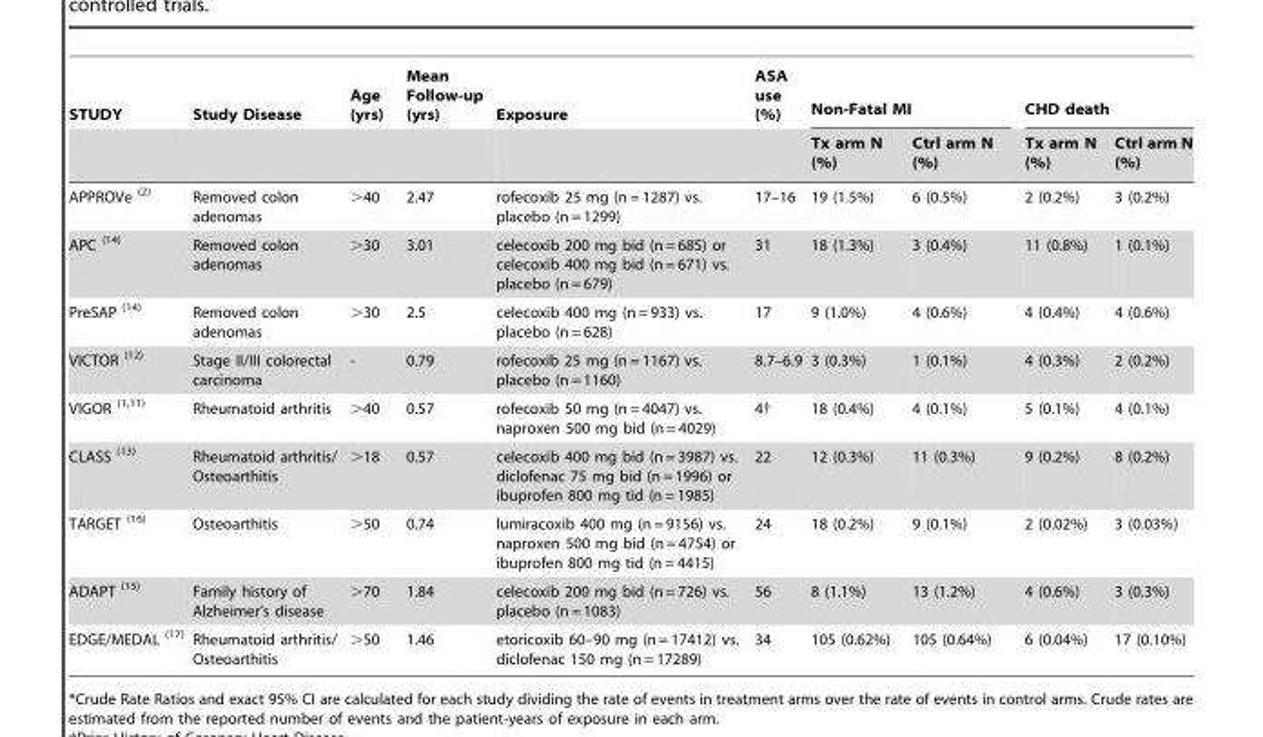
<table><thead><tr><td rowspan="2">STUDY</td><td rowspan="2">Study Disease</td><td rowspan="2">Age (yrs)</td><td rowspan="2">Mean Follow-up (yrs)</td><td rowspan="2">Exposure</td><td rowspan="2">ASA use (%)</td><td colspan="2">Non-Fatal MI</td><td colspan="2">CHD death</td></tr><tr><td>Tx arm N (%)</td><td>Ctrl arm N (%)</td><td>Tx arm N (%)</td><td>Ctrl arm N (%)</td></tr></thead><tbody><tr><td>APPROVe <sup>(2)</sup></td><td>Removed colon adenomas</td><td>&gt;40</td><td>2.47</td><td>rofecoxib 25 mg (n = 1287) vs. placebo (n = 1299)</td><td>17–16</td><td>19 (1.5%)</td><td>6 (0.5%)</td><td>2 (0.2%)</td><td>3 (0.2%)</td></tr><tr><td>APC <sup>(14)</sup></td><td>Removed colon adenomas</td><td>&gt;30</td><td>3.01</td><td>celecoxib 200 mg bid (n = 685) or celecoxib 400 mg bid (n = 671) vs. placebo (n = 679)</td><td>31</td><td>18 (1.3%)</td><td>3 (0.4%)</td><td>11 (0.8%)</td><td>1 (0.1%)</td></tr><tr><td>PreSAP <sup>(14)</sup></td><td>Removed colon adenomas</td><td>&gt;30</td><td>2.5</td><td>celecoxib 400 mg (n = 933) vs. placebo (n = 628)</td><td>17</td><td>9 (1.0%)</td><td>4 (0.6%)</td><td>4 (0.4%)</td><td>4 (0.6%)</td></tr><tr><td>VICTOR <sup>(12)</sup></td><td>Stage II/III colorectal carcinoma</td><td>-</td><td>0.79</td><td>rofecoxib 25 mg (n = 1167) vs. placebo (n = 1160)</td><td>8.7–6.9</td><td>3 (0.3%)</td><td>1 (0.1%)</td><td>4 (0.3%)</td><td>2 (0.2%)</td></tr><tr><td>VIGOR <sup>(1,11)</sup></td><td>Rheumatoid arthritis</td><td>&gt;40</td><td>0.57</td><td>rofecoxib 50 mg (n = 4047) vs. naproxen 500 mg bid (n = 4029)</td><td>4†</td><td>18 (0.4%)</td><td>4 (0.1%)</td><td>5 (0.1%)</td><td>4 (0.1%)</td></tr><tr><td>CLASS <sup>(13)</sup></td><td>Rheumatoid arthritis/ Osteoarthitis</td><td>&gt;18</td><td>0.57</td><td>celecoxib 400 mg bid (n = 3987) vs. diclofenac 75 mg bid (n = 1996) or ibuprofen 800 mg tid (n = 1985)</td><td>22</td><td>12 (0.3%)</td><td>11 (0.3%)</td><td>9 (0.2%)</td><td>8 (0.2%)</td></tr><tr><td>TARGET <sup>(16)</sup></td><td>Osteoarthitis</td><td>&gt;50</td><td>0.74</td><td>lumiracoxib 400 mg (n = 9156) vs. naproxen 500 mg bid (n = 4754) or ibuprofen 800 mg tid (n = 4415)</td><td>24</td><td>18 (0.2%)</td><td>9 (0.1%)</td><td>2 (0.02%)</td><td>3 (0.03%)</td></tr><tr><td>ADAPT <sup>(15)</sup></td><td>Family history of Alzheimer’s disease</td><td>&gt;70</td><td>1.84</td><td>celecoxib 200 mg bid (n = 726) vs. placebo (n = 1083)</td><td>56</td><td>8 (1.1%)</td><td>13 (1.2%)</td><td>4 (0.6%)</td><td>3 (0.3%)</td></tr><tr><td>EDGE/MEDAL <sup>(17)</sup></td><td>Rheumatoid arthritis/ Osteoarthitis</td><td>&gt;50</td><td>1.46</td><td>etoricoxib 60–90 mg (n = 17412) vs. diclofenac 150 mg (n = 17289)</td><td>34</td><td>105 (0.62%)</td><td>105 (0.64%)</td><td>6 (0.04%)</td><td>17 (0.10%)</td></tr></tbody></table>